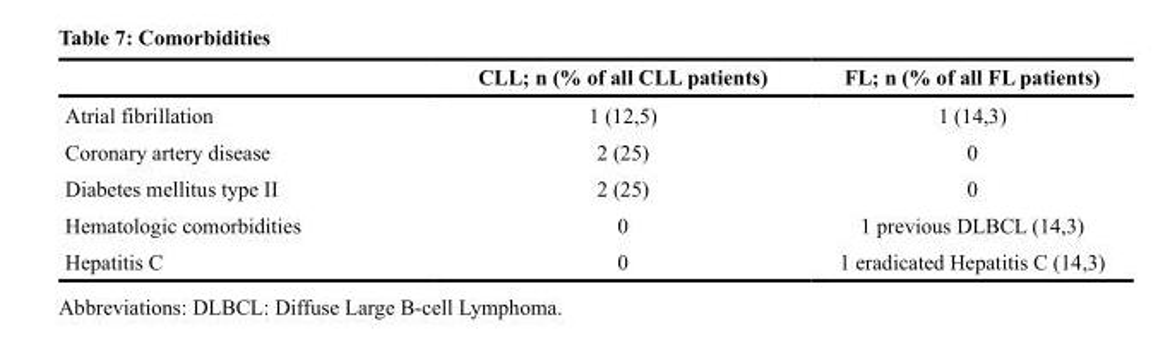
<table><thead><tr><td></td><td>CLL; n (% of all CLL patients)</td><td>FL; n (% of all FL patients)</td></tr></thead><tbody><tr><td>Atrial fibrillation</td><td>1 (12,5)</td><td>1 (14,3)</td></tr><tr><td>Coronary artery disease</td><td>2 (25)</td><td>0</td></tr><tr><td>Diabetes mellitus type II</td><td>2 (25)</td><td>0</td></tr><tr><td>Hematologic comorbidities</td><td>0</td><td>1 previous DLBCL (14,3)</td></tr><tr><td>Hepatitis C</td><td>0</td><td>1 eradicated Hepatitis C (14,3)</td></tr></tbody></table>